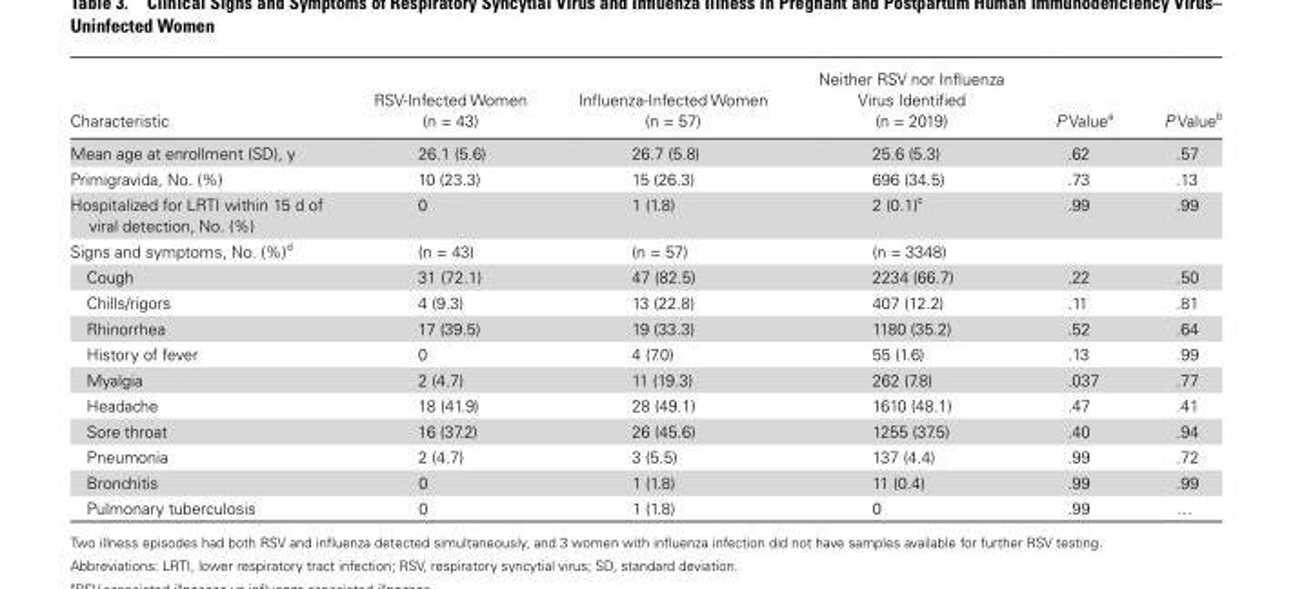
<table><thead><tr><td>Characteristic</td><td>RSV-Infected Women (n = 43)</td><td>Influenza-Infected Women (n = 57)</td><td>Neither RSV nor Influenza Virus Identified (n = 2019)</td><td>P Value<sup>a</sup></td><td>P Value<sup>b</sup></td></tr></thead><tbody><tr><td>Mean age at enrollment (SD), y</td><td>26.1 (5.6)</td><td>26.7 (5.8)</td><td>25.6 (5.3)</td><td>.62</td><td>.57</td></tr><tr><td>Primigravida, No. (%)</td><td>10 (23.3)</td><td>15 (26.3)</td><td>696 (34.5)</td><td>.73</td><td>.13</td></tr><tr><td>Hospitalized for LRTI within 15 d of viral detection, No. (%)</td><td>0</td><td>1 (1.8)</td><td>2 (0.1)<sup>c</sup></td><td>.99</td><td>.99</td></tr><tr><td>Signs and symptoms, No. (%)<sup>d</sup></td><td>(n = 43)</td><td>(n = 57)</td><td>(n = 3348)</td><td></td><td></td></tr><tr><td>Cough</td><td>31 (72.1)</td><td>47 (82.5)</td><td>2234 (66.7)</td><td>.22</td><td>.50</td></tr><tr><td>Chills/rigors</td><td>4 (9.3)</td><td>13 (22.8)</td><td>407 (12.2)</td><td>.11</td><td>.81</td></tr><tr><td>Rhinorrhea</td><td>17 (39.5)</td><td>19 (33.3)</td><td>1180 (35.2)</td><td>.52</td><td>.64</td></tr><tr><td>History of fever</td><td>0</td><td>4 (7.0)</td><td>55 (1.6)</td><td>.13</td><td>.99</td></tr><tr><td>Myalgia</td><td>2 (4.7)</td><td>11 (19.3)</td><td>262 (7.8)</td><td>.037</td><td>.77</td></tr><tr><td>Headache</td><td>18 (41.9)</td><td>28 (49.1)</td><td>1610 (48.1)</td><td>.47</td><td>.41</td></tr><tr><td>Sore throat</td><td>16 (37.2)</td><td>26 (45.6)</td><td>1255 (37.5)</td><td>.40</td><td>.94</td></tr><tr><td>Pneumonia</td><td>2 (4.7)</td><td>3 (5.5)</td><td>137 (4.4)</td><td>.99</td><td>.72</td></tr><tr><td>Bronchitis</td><td>0</td><td>1 (1.8)</td><td>11 (0.4)</td><td>.99</td><td>.99</td></tr><tr><td>Pulmonary tuberculosis</td><td>0</td><td>1 (1.8)</td><td>0</td><td>.99</td><td>…</td></tr></tbody></table>